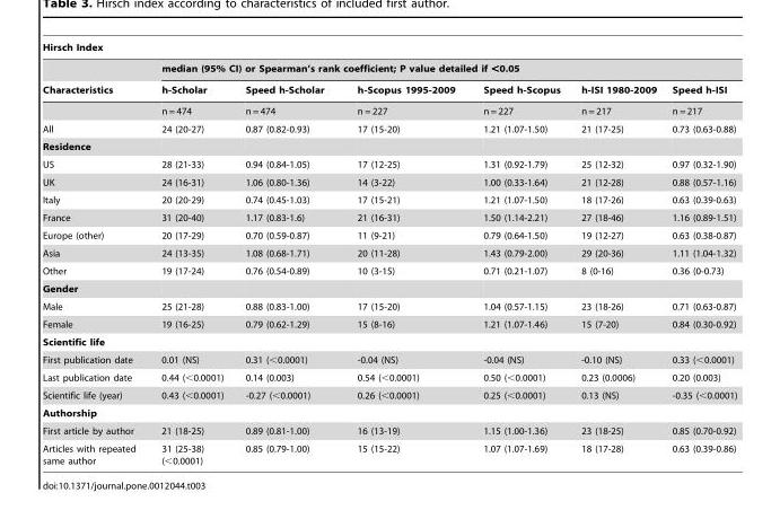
<table><thead><tr><td colspan="7">Hirsch Index</td></tr><tr><td rowspan="2">Characteristics</td><td colspan="6">median (95% CI) or Spearman’s rank coefficient; P value detailed if &lt;0.05</td></tr><tr><td>h-Scholar</td><td>Speed h-Scholar</td><td>h-Scopus 1995-2009</td><td>Speed h-Scopus</td><td>h-ISI 1980-2009</td><td>Speed h-ISI</td></tr></thead><tbody><tr><td></td><td>n = 474</td><td>n = 474</td><td>n = 227</td><td>n = 227</td><td>n = 217</td><td>n = 217</td></tr><tr><td>All</td><td>24 (20-27)</td><td>0.87 (0.82-0.93)</td><td>17 (15-20)</td><td>1.21 (1.07-1.50)</td><td>21 (17-25)</td><td>0.73 (0.63-0.88)</td></tr><tr><td colspan="7">Residence</td></tr><tr><td>US</td><td>28 (21-33)</td><td>0.94 (0.84-1.05)</td><td>17 (12-25)</td><td>1.31 (0.92-1.79)</td><td>25 (12-32)</td><td>0.97 (0.32-1.90)</td></tr><tr><td>UK</td><td>24 (16-31)</td><td>1.06 (0.80-1.36)</td><td>14 (3-22)</td><td>1.00 (0.33-1.64)</td><td>21 (12-28)</td><td>0.88 (0.57-1.16)</td></tr><tr><td>Italy</td><td>20 (20-29)</td><td>0.74 (0.45-1.03)</td><td>17 (15-21)</td><td>1.21 (1.07-1.50)</td><td>18 (17-26)</td><td>0.63 (0.39-0.63)</td></tr><tr><td>France</td><td>31 (20-40)</td><td>1.17 (0.83-1.6)</td><td>21 (16-31)</td><td>1.50 (1.14-2.21)</td><td>27 (18-46)</td><td>1.16 (0.89-1.51)</td></tr><tr><td>Europe (other)</td><td>20 (17-29)</td><td>0.70 (0.59-0.87)</td><td>11 (9-21)</td><td>0.79 (0.64-1.50)</td><td>19 (12-27)</td><td>0.63 (0.38-0.87)</td></tr><tr><td>Asia</td><td>24 (13-35)</td><td>1.08 (0.68-1.71)</td><td>20 (11-28)</td><td>1.43 (0.79-2.00)</td><td>29 (20-36)</td><td>1.11 (1.04-1.32)</td></tr><tr><td>Other</td><td>19 (17-24)</td><td>0.76 (0.54-0.89)</td><td>10 (3-15)</td><td>0.71 (0.21-1.07)</td><td>8 (0-16)</td><td>0.36 (0-0.73)</td></tr><tr><td colspan="7">Gender</td></tr><tr><td>Male</td><td>25 (21-28)</td><td>0.88 (0.83-1.00)</td><td>17 (15-20)</td><td>1.04 (0.57-1.15)</td><td>23 (18-26)</td><td>0.71 (0.63-0.87)</td></tr><tr><td>Female</td><td>19 (16-25)</td><td>0.79 (0.62-1.29)</td><td>15 (8-16)</td><td>1.21 (1.07-1.46)</td><td>15 (7-20)</td><td>0.84 (0.30-0.92)</td></tr><tr><td colspan="7">Scientific life</td></tr><tr><td>First publication date</td><td>0.01 (NS)</td><td>0.31 (&lt;0.0001)</td><td>-0.04 (NS)</td><td>-0.04 (NS)</td><td>-0.10 (NS)</td><td>0.33 (&lt;0.0001)</td></tr><tr><td>Last publication date</td><td>0.44 (&lt;0.0001)</td><td>0.14 (0.003)</td><td>0.54 (&lt;0.0001)</td><td>0.50 (&lt;0.0001)</td><td>0.23 (0.0006)</td><td>0.20 (0.003)</td></tr><tr><td>Scientific life (year)</td><td>0.43 (&lt;0.0001)</td><td>-0.27 (&lt;0.0001)</td><td>0.26 (&lt;0.0001)</td><td>0.25 (&lt;0.0001)</td><td>0.13 (NS)</td><td>-0.35 (&lt;0.0001)</td></tr><tr><td colspan="7">Authorship</td></tr><tr><td>First article by author</td><td>21 (18-25)</td><td>0.89 (0.81-1.00)</td><td>16 (13-19)</td><td>1.15 (1.00-1.36)</td><td>23 (18-25)</td><td>0.85 (0.70-0.92)</td></tr><tr><td>Articles with repeated same author</td><td>31 (25-38) (&lt;0.0001)</td><td>0.85 (0.79-1.00)</td><td>15 (15-22)</td><td>1.07 (1.07-1.69)</td><td>18 (17-28)</td><td>0.63 (0.39-0.86)</td></tr></tbody></table>